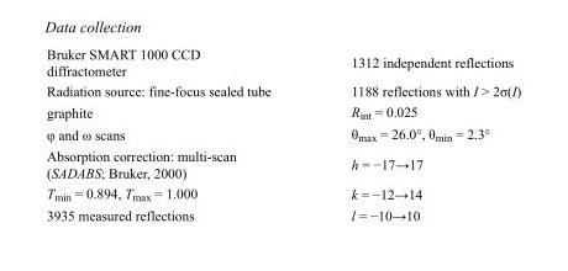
<table><tbody><tr><td>Bruker SMART 1000 CCD diffractometer</td><td>1312 independent reflections</td></tr><tr><td>Radiation source: fine-focus sealed tube</td><td>1188 reflections with I &gt; 2σ(I)</td></tr><tr><td>graphite</td><td>R<sub>int</sub> = 0.025</td></tr><tr><td>φ and ω scans</td><td>θ<sub>max</sub> = 26.0°, θ<sub>min</sub> = 2.3°</td></tr><tr><td>Absorption correction: multi-scan (SADABS; Bruker, 2000)</td><td>h = −17→17</td></tr><tr><td>T<sub>min</sub> = 0.894, T<sub>max</sub> = 1.000</td><td>k = −12→14</td></tr><tr><td>3935 measured reflections</td><td>l = −10→10</td></tr></tbody></table>